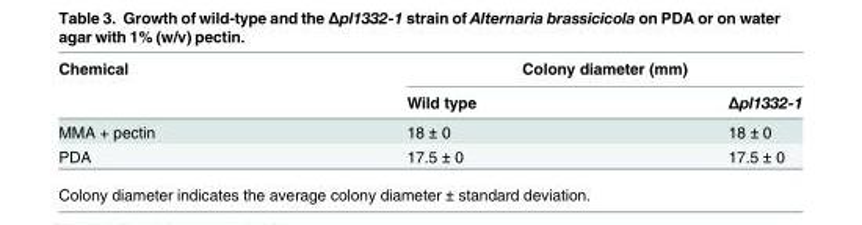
<table><thead><tr><td rowspan="2">Chemical</td><td colspan="2">Colony diameter (mm)</td></tr><tr><td>Wild type</td><td>Δpl1332-1</td></tr></thead><tbody><tr><td>MMA + pectin</td><td>18 ± 0</td><td>18 ± 0</td></tr><tr><td>PDA</td><td>17.5 ± 0</td><td>17.5 ± 0</td></tr></tbody></table>